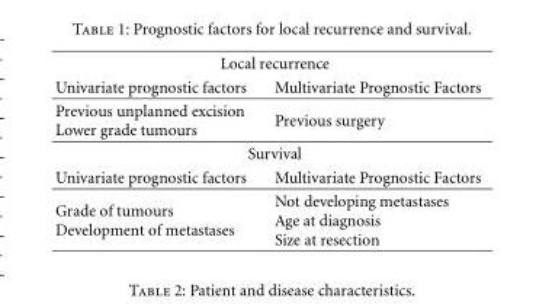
<table><tbody><tr><td colspan="2">Local recurrence</td></tr><tr><td>Univariate prognostic factors</td><td>Multivariate Prognostic Factors</td></tr><tr><td>Previous unplanned excision Lower grade tumours</td><td>Previous surgery</td></tr><tr><td colspan="2">Survival</td></tr><tr><td>Univariate prognostic factors</td><td>Multivariate Prognostic Factors</td></tr><tr><td>Grade of tumours Development of metastases</td><td>Not developing metastases Age at diagnosis Size at resection</td></tr></tbody></table>